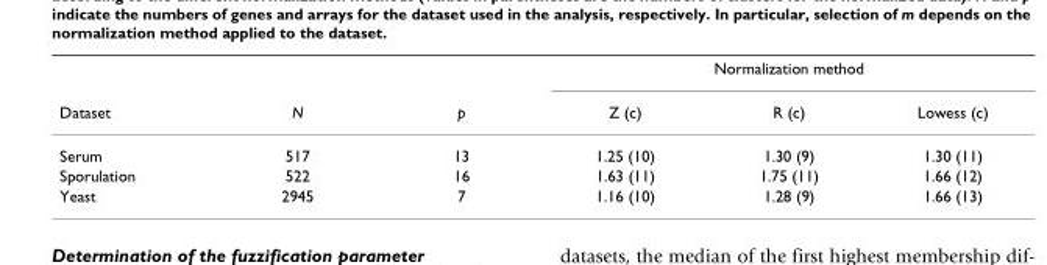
<table><thead><tr><td rowspan="2">Dataset</td><td rowspan="2">N</td><td rowspan="2">p</td><td colspan="3">Normalization method</td></tr><tr><td>Z (c)</td><td>R (c)</td><td>Lowess (c)</td></tr></thead><tbody><tr><td>Serum</td><td>517</td><td>13</td><td>1.25 (10)</td><td>1.30 (9)</td><td>1.30 (11)</td></tr><tr><td>Sporulation</td><td>522</td><td>16</td><td>1.63 (11)</td><td>1.75 (11)</td><td>1.66 (12)</td></tr><tr><td>Yeast</td><td>2945</td><td>7</td><td>1.16 (10)</td><td>1.28 (9)</td><td>1.66 (13)</td></tr></tbody></table>